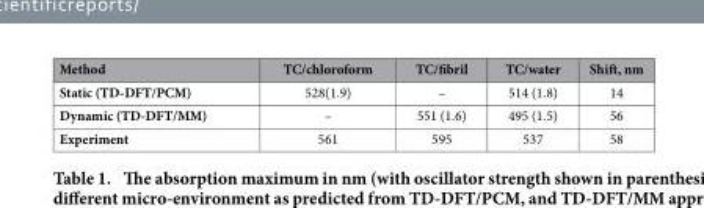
<table><thead><tr><td>Method</td><td>TC/chloroform</td><td>TC/fibril</td><td>TC/water</td><td>Shift, nm</td></tr></thead><tbody><tr><td>Static (TD-DFT/PCM)</td><td>528(1.9)</td><td>–</td><td>514 (1.8)</td><td>14</td></tr><tr><td>Dynamic (TD-DFT/MM)</td><td>–</td><td>551 (1.6)</td><td>495 (1.5)</td><td>56</td></tr><tr><td>Experiment</td><td>561</td><td>595</td><td>537</td><td>58</td></tr></tbody></table>